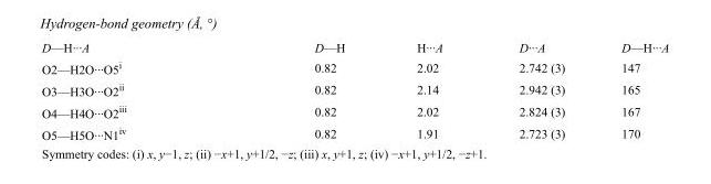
<table><tbody><tr><td>D—H···A</td><td>D—H</td><td>H···A</td><td>D···A</td><td>D—H···A</td></tr><tr><td>O2—H2O···O5<sup>i</sup></td><td>0.82</td><td>2.02</td><td>2.742 (3)</td><td>147</td></tr><tr><td>O3—H3O···O2<sup>ii</sup></td><td>0.82</td><td>2.14</td><td>2.942 (3)</td><td>165</td></tr><tr><td>O4—H4O···O2<sup>iii</sup></td><td>0.82</td><td>2.02</td><td>2.824 (3)</td><td>167</td></tr><tr><td>O5—H5O···N1<sup>iv</sup></td><td>0.82</td><td>1.91</td><td>2.723 (3)</td><td>170</td></tr></tbody></table>